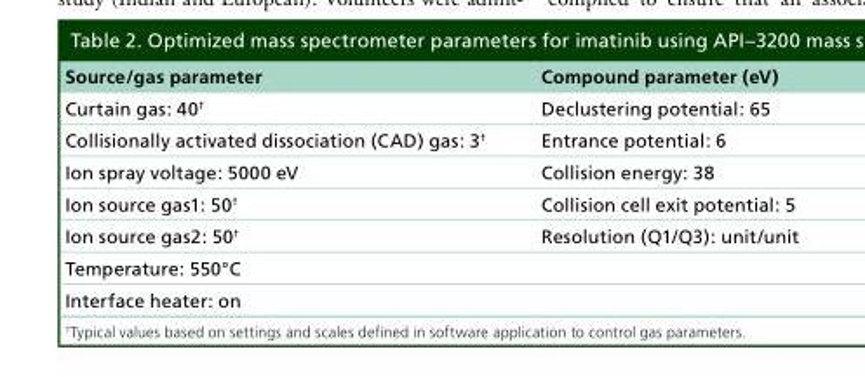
<table><thead><tr><td>Source/gas parameter</td><td>Compound parameter (eV)</td></tr></thead><tbody><tr><td>Curtain gas: 40<sup>†</sup></td><td>Declustering potential: 65</td></tr><tr><td>Collisionally activated dissociation (CAD) gas: 3<sup>†</sup></td><td>Entrance potential: 6</td></tr><tr><td>Ion spray voltage: 5000 eV</td><td>Collision energy: 38</td></tr><tr><td>Ion source gas1: 50<sup>†</sup></td><td>Collision cell exit potential: 5</td></tr><tr><td>Ion source gas2: 50<sup>†</sup></td><td>Resolution (Q1/Q3): unit/unit</td></tr><tr><td colspan="2">Temperature: 550°C</td></tr><tr><td>Interface heater: on</td><td></td></tr></tbody></table>